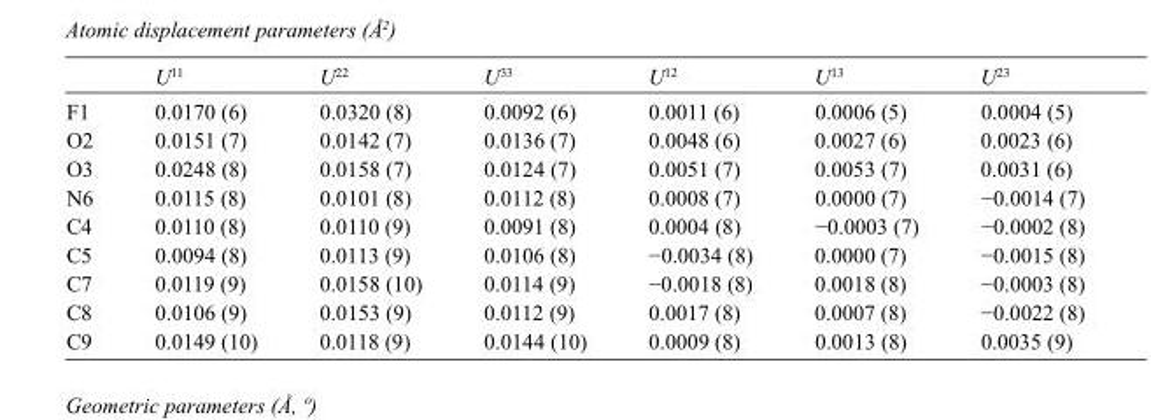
<table><thead><tr><td></td><td>U<sup>11</sup></td><td>U<sup>22</sup></td><td>U<sup>33</sup></td><td>U<sup>12</sup></td><td>U<sup>13</sup></td><td>U<sup>23</sup></td></tr></thead><tbody><tr><td>F1</td><td>0.0170 (6)</td><td>0.0320 (8)</td><td>0.0092 (6)</td><td>0.0011 (6)</td><td>0.0006 (5)</td><td>0.0004 (5)</td></tr><tr><td>O2</td><td>0.0151 (7)</td><td>0.0142 (7)</td><td>0.0136 (7)</td><td>0.0048 (6)</td><td>0.0027 (6)</td><td>0.0023 (6)</td></tr><tr><td>O3</td><td>0.0248 (8)</td><td>0.0158 (7)</td><td>0.0124 (7)</td><td>0.0051 (7)</td><td>0.0053 (7)</td><td>0.0031 (6)</td></tr><tr><td>N6</td><td>0.0115 (8)</td><td>0.0101 (8)</td><td>0.0112 (8)</td><td>0.0008 (7)</td><td>0.0000 (7)</td><td>−0.0014 (7)</td></tr><tr><td>C4</td><td>0.0110 (8)</td><td>0.0110 (9)</td><td>0.0091 (8)</td><td>0.0004 (8)</td><td>−0.0003 (7)</td><td>−0.0002 (8)</td></tr><tr><td>C5</td><td>0.0094 (8)</td><td>0.0113 (9)</td><td>0.0106 (8)</td><td>−0.0034 (8)</td><td>0.0000 (7)</td><td>−0.0015 (8)</td></tr><tr><td>C7</td><td>0.0119 (9)</td><td>0.0158 (10)</td><td>0.0114 (9)</td><td>−0.0018 (8)</td><td>0.0018 (8)</td><td>−0.0003 (8)</td></tr><tr><td>C8</td><td>0.0106 (9)</td><td>0.0153 (9)</td><td>0.0112 (9)</td><td>0.0017 (8)</td><td>0.0007 (8)</td><td>−0.0022 (8)</td></tr><tr><td>C9</td><td>0.0149 (10)</td><td>0.0118 (9)</td><td>0.0144 (10)</td><td>0.0009 (8)</td><td>0.0013 (8)</td><td>0.0035 (9)</td></tr></tbody></table>